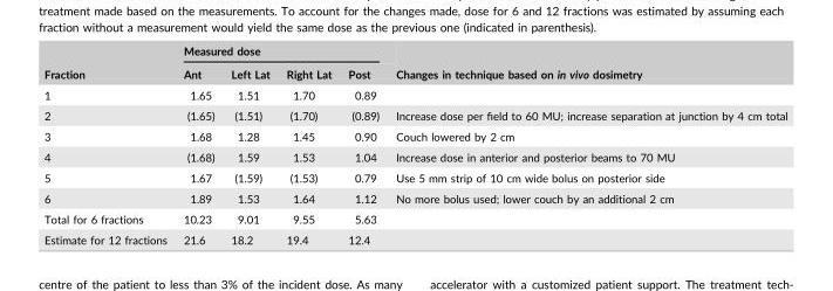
<table><thead><tr><td rowspan="2">Fraction</td><td colspan="4">Measured dose</td><td rowspan="2">Changes in technique based on in vivo dosimetry</td></tr><tr><td>Ant</td><td>Left Lat</td><td>Right Lat</td><td>Post</td></tr></thead><tbody><tr><td>1</td><td>1.65</td><td>1.51</td><td>1.70</td><td>0.89</td><td></td></tr><tr><td>2</td><td>(1.65)</td><td>(1.51)</td><td>(1.70)</td><td>(0.89)</td><td>Increase dose per field to 60 MU; increase separation at junction by 4 cm total</td></tr><tr><td>3</td><td>1.68</td><td>1.28</td><td>1.45</td><td>0.90</td><td>Couch lowered by 2 cm</td></tr><tr><td>4</td><td>(1.68)</td><td>1.59</td><td>1.53</td><td>1.04</td><td>Increase dose in anterior and posterior beams to 70 MU</td></tr><tr><td>5</td><td>1.67</td><td>(1.59)</td><td>(1.53)</td><td>0.79</td><td>Use 5 mm strip of 10 cm wide bolus on posterior side</td></tr><tr><td>6</td><td>1.89</td><td>1.53</td><td>1.64</td><td>1.12</td><td>No more bolus used; lower couch by an additional 2 cm</td></tr><tr><td>Total for 6 fractions</td><td>10.23</td><td>9.01</td><td>9.55</td><td>5.63</td><td></td></tr><tr><td>Estimate for 12 fractions</td><td>21.6</td><td>18.2</td><td>19.4</td><td>12.4</td><td></td></tr></tbody></table>